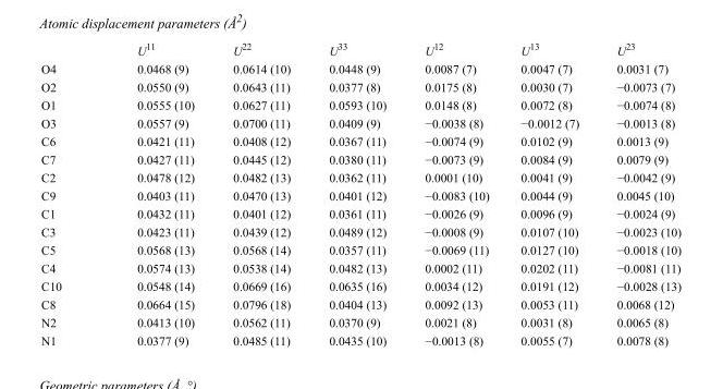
<table><thead><tr><td></td><td>U<sup>11</sup></td><td>U<sup>22</sup></td><td>U<sup>33</sup></td><td>U<sup>12</sup></td><td>U<sup>13</sup></td><td>U<sup>23</sup></td></tr></thead><tbody><tr><td>O4</td><td>0.0468 (9)</td><td>0.0614 (10)</td><td>0.0448 (9)</td><td>0.0087 (7)</td><td>0.0047 (7)</td><td>0.0031 (7)</td></tr><tr><td>O2</td><td>0.0550 (9)</td><td>0.0643 (11)</td><td>0.0377 (8)</td><td>0.0175 (8)</td><td>0.0030 (7)</td><td>−0.0073 (7)</td></tr><tr><td>O1</td><td>0.0555 (10)</td><td>0.0627 (11)</td><td>0.0593 (10)</td><td>0.0148 (8)</td><td>0.0072 (8)</td><td>−0.0074 (8)</td></tr><tr><td>O3</td><td>0.0557 (9)</td><td>0.0700 (11)</td><td>0.0409 (9)</td><td>−0.0038 (8)</td><td>−0.0012 (7)</td><td>−0.0013 (8)</td></tr><tr><td>C6</td><td>0.0421 (11)</td><td>0.0408 (12)</td><td>0.0367 (11)</td><td>−0.0074 (9)</td><td>0.0102 (9)</td><td>0.0013 (9)</td></tr><tr><td>C7</td><td>0.0427 (11)</td><td>0.0445 (12)</td><td>0.0380 (11)</td><td>−0.0073 (9)</td><td>0.0084 (9)</td><td>0.0079 (9)</td></tr><tr><td>C2</td><td>0.0478 (12)</td><td>0.0482 (13)</td><td>0.0362 (11)</td><td>0.0001 (10)</td><td>0.0041 (9)</td><td>−0.0042 (9)</td></tr><tr><td>C9</td><td>0.0403 (11)</td><td>0.0470 (13)</td><td>0.0401 (12)</td><td>−0.0083 (10)</td><td>0.0044 (9)</td><td>0.0045 (10)</td></tr><tr><td>C1</td><td>0.0432 (11)</td><td>0.0401 (12)</td><td>0.0361 (11)</td><td>−0.0026 (9)</td><td>0.0096 (9)</td><td>−0.0024 (9)</td></tr><tr><td>C3</td><td>0.0423 (11)</td><td>0.0439 (12)</td><td>0.0489 (12)</td><td>−0.0008 (9)</td><td>0.0107 (10)</td><td>−0.0023 (10)</td></tr><tr><td>C5</td><td>0.0568 (13)</td><td>0.0568 (14)</td><td>0.0357 (11)</td><td>−0.0069 (11)</td><td>0.0127 (10)</td><td>−0.0018 (10)</td></tr><tr><td>C4</td><td>0.0574 (13)</td><td>0.0538 (14)</td><td>0.0482 (13)</td><td>0.0002 (11)</td><td>0.0202 (11)</td><td>−0.0081 (11)</td></tr><tr><td>C10</td><td>0.0548 (14)</td><td>0.0669 (16)</td><td>0.0635 (16)</td><td>0.0034 (12)</td><td>0.0191 (12)</td><td>−0.0028 (13)</td></tr><tr><td>C8</td><td>0.0664 (15)</td><td>0.0796 (18)</td><td>0.0404 (13)</td><td>0.0092 (13)</td><td>0.0053 (11)</td><td>0.0068 (12)</td></tr><tr><td>N2</td><td>0.0413 (10)</td><td>0.0562 (11)</td><td>0.0370 (9)</td><td>0.0021 (8)</td><td>0.0031 (8)</td><td>0.0065 (8)</td></tr><tr><td>N1</td><td>0.0377 (9)</td><td>0.0485 (11)</td><td>0.0435 (10)</td><td>−0.0013 (8)</td><td>0.0055 (7)</td><td>0.0078 (8)</td></tr></tbody></table>